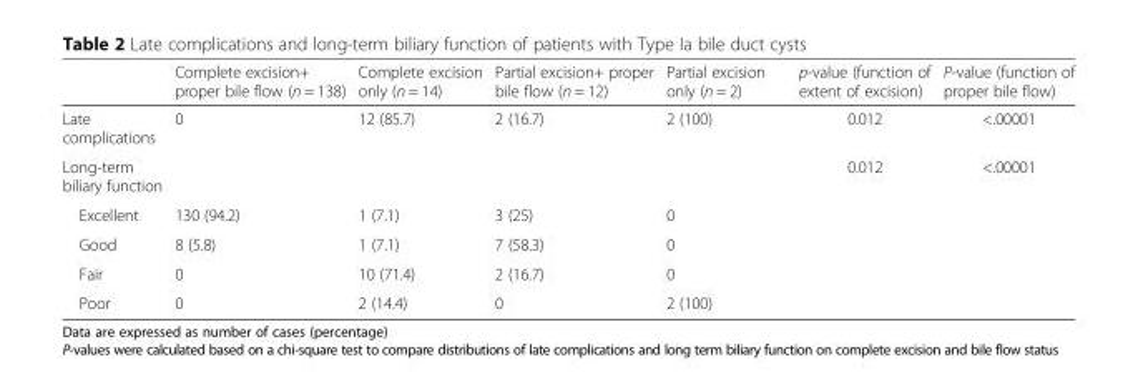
<table><thead><tr><td></td><td>Complete excision+ proper bile flow (n = 138)</td><td>Complete excision only (n = 14)</td><td>Partial excision+ proper bile flow (n = 12)</td><td>Partial excision only (n = 2)</td><td>p-value (function of extent of excision)</td><td>P-value (function of proper bile flow)</td></tr></thead><tbody><tr><td>Late complications</td><td>0</td><td>12 (85.7)</td><td>2 (16.7)</td><td>2 (100)</td><td>0.012</td><td>&lt;.00001</td></tr><tr><td>Long-term biliary function</td><td></td><td></td><td></td><td></td><td>0.012</td><td>&lt;.00001</td></tr><tr><td>Excellent</td><td>130 (94.2)</td><td>1 (7.1)</td><td>3 (25)</td><td>0</td><td></td><td></td></tr><tr><td>Good</td><td>8 (5.8)</td><td>1 (7.1)</td><td>7 (58.3)</td><td>0</td><td></td><td></td></tr><tr><td>Fair</td><td>0</td><td>10 (71.4)</td><td>2 (16.7)</td><td>0</td><td></td><td></td></tr><tr><td>Poor</td><td>0</td><td>2 (14.4)</td><td>0</td><td>2 (100)</td><td></td><td></td></tr></tbody></table>